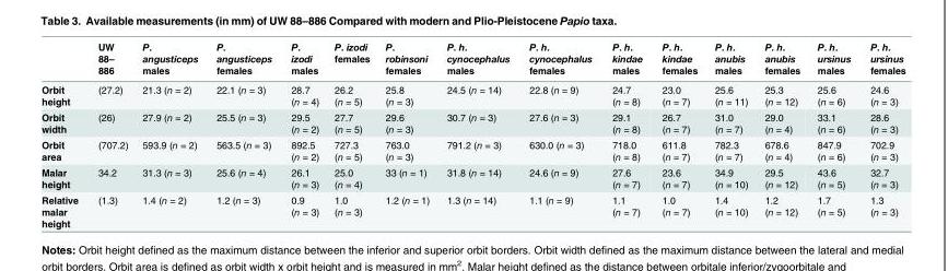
<table><thead><tr><td></td><td>UW 88– 886</td><td>P. angusticeps males</td><td>P. angusticeps females</td><td>P. izodi males</td><td>P. izodi females</td><td>P. robinsoni females</td><td>P. h. cynocephalus males</td><td>P. h. cynocephalus females</td><td>P. h. kindae males</td><td>P. h. kindae females</td><td>P. h. anubis males</td><td>P. h. anubis females</td><td>P. h. ursinus males</td><td>P. h. ursinus females</td></tr></thead><tbody><tr><td>Orbit height</td><td>(27.2)</td><td>21.3 (n = 2)</td><td>22.1 (n = 3)</td><td>28.7 (n = 4)</td><td>26.2 (n = 5)</td><td>25.8 (n = 3)</td><td>24.5 (n = 14)</td><td>22.8 (n = 9)</td><td>24.7 (n = 8)</td><td>23.0 (n = 7)</td><td>25.6 (n = 11)</td><td>25.3 (n = 12)</td><td>25.6 (n = 6)</td><td>24.6 (n = 3)</td></tr><tr><td>Orbit width</td><td>(26)</td><td>27.9 (n = 2)</td><td>25.5 (n = 3)</td><td>29.5 (n = 2)</td><td>27.7 (n = 5)</td><td>29.6 (n = 3)</td><td>30.7 (n = 3)</td><td>27.6 (n = 3)</td><td>29.1 (n = 8)</td><td>26.7 (n = 7)</td><td>31.0 (n = 7)</td><td>29.0 (n = 4)</td><td>33.1 (n = 6)</td><td>28.6 (n = 3)</td></tr><tr><td>Orbit area</td><td>(707.2)</td><td>593.9 (n = 2)</td><td>563.5 (n = 3)</td><td>892.5 (n = 2)</td><td>727.3 (n = 5)</td><td>763.0 (n = 3)</td><td>791.2 (n = 3)</td><td>630.0 (n = 3)</td><td>718.0 (n = 8)</td><td>611.8 (n = 7)</td><td>782.3 (n = 7)</td><td>678.6 (n = 4)</td><td>847.9 (n = 6)</td><td>702.9 (n = 3)</td></tr><tr><td>Malar height</td><td>34.2</td><td>31.3 (n = 3)</td><td>25.6 (n = 4)</td><td>26.1 (n = 3)</td><td>25.0 (n = 4)</td><td>33 (n = 1)</td><td>31.8 (n = 14)</td><td>24.6 (n = 9)</td><td>27.6 (n = 7)</td><td>23.6 (n = 7)</td><td>34.9 (n = 10)</td><td>29.5 (n = 12)</td><td>43.6 (n = 5)</td><td>32.7 (n = 3)</td></tr><tr><td>Relative malar height</td><td>(1.3)</td><td>1.4 (n = 2)</td><td>1.2 (n = 3)</td><td>0.9 (n = 3)</td><td>1.0 (n = 3)</td><td>1.2 (n = 1)</td><td>1.3 (n = 14)</td><td>1.1 (n = 9)</td><td>1.1 (n = 7)</td><td>1.0 (n = 7)</td><td>1.4 (n = 10)</td><td>1.2 (n = 12)</td><td>1.7 (n = 5)</td><td>1.3 (n = 3)</td></tr></tbody></table>